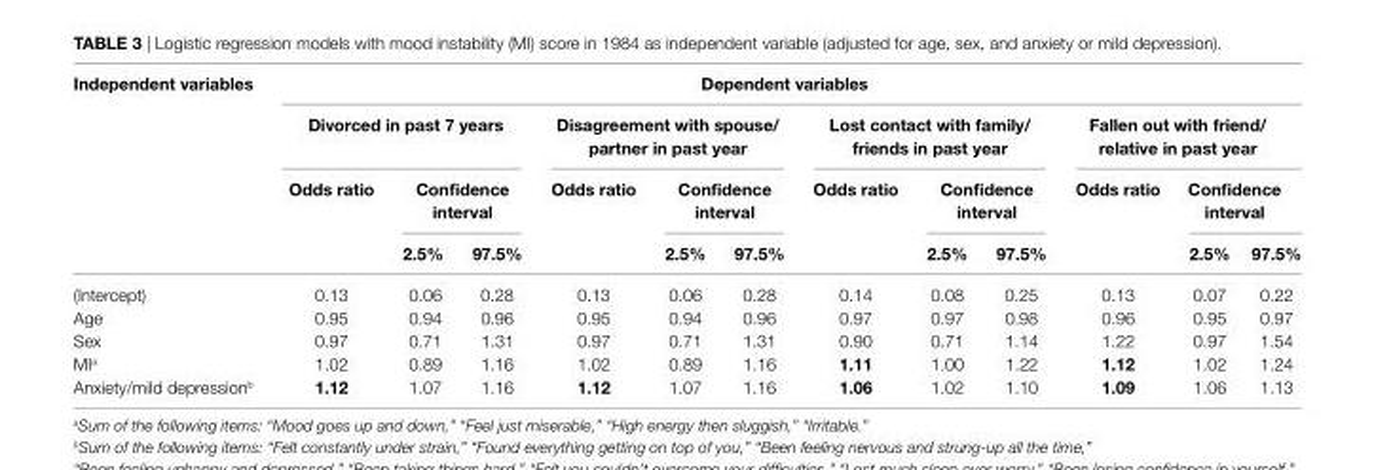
<table><thead><tr><td rowspan="4">independent variables</td><td colspan="12">Dependent variables</td></tr><tr><td colspan="3">Divorced in past 7 years</td><td colspan="3">Disagreement with spouse/ partner in past year</td><td colspan="3">lost contact with family/ friends in past year</td><td colspan="3">Fallen out with friend/ relative in past year</td></tr><tr><td rowspan="2">Odds ratio</td><td colspan="2">confidence interval</td><td rowspan="2">Odds ratio</td><td colspan="2">confidence interval</td><td rowspan="2">Odds ratio</td><td colspan="2">confidence interval</td><td rowspan="2">Odds ratio</td><td colspan="2">confidence interval</td></tr><tr><td>2.5%</td><td>97.5%</td><td>2.5%</td><td>97.5%</td><td>2.5%</td><td>97.5%</td><td>2.5%</td><td>97.5%</td></tr></thead><tbody><tr><td>(Intercept)</td><td>0.13</td><td>0.06</td><td>0.28</td><td>0.13</td><td>0.06</td><td>0.28</td><td>0.14</td><td>0.08</td><td>0.25</td><td>0.13</td><td>0.07</td><td>0.22</td></tr><tr><td>Age</td><td>0.95</td><td>0.94</td><td>0.96</td><td>0.95</td><td>0.94</td><td>0.96</td><td>0.97</td><td>0.97</td><td>0.98</td><td>0.96</td><td>0.95</td><td>0.97</td></tr><tr><td>Sex</td><td>0.97</td><td>0.71</td><td>1.31</td><td>0.97</td><td>0.71</td><td>1.31</td><td>0.90</td><td>0.71</td><td>1.14</td><td>1.22</td><td>0.97</td><td>1.54</td></tr><tr><td>MI<sup>a</sup></td><td>1.02</td><td>0.89</td><td>1.16</td><td>1.02</td><td>0.89</td><td>1.16</td><td>1.11</td><td>1.00</td><td>1.22</td><td>1.12</td><td>1.02</td><td>1.24</td></tr><tr><td>Anxiety/mild depression<sup>b</sup></td><td>1.12</td><td>1.07</td><td>1.16</td><td>1.12</td><td>1.07</td><td>1.16</td><td>1.06</td><td>1.02</td><td>1.10</td><td>1.09</td><td>1.06</td><td>1.13</td></tr></tbody></table>